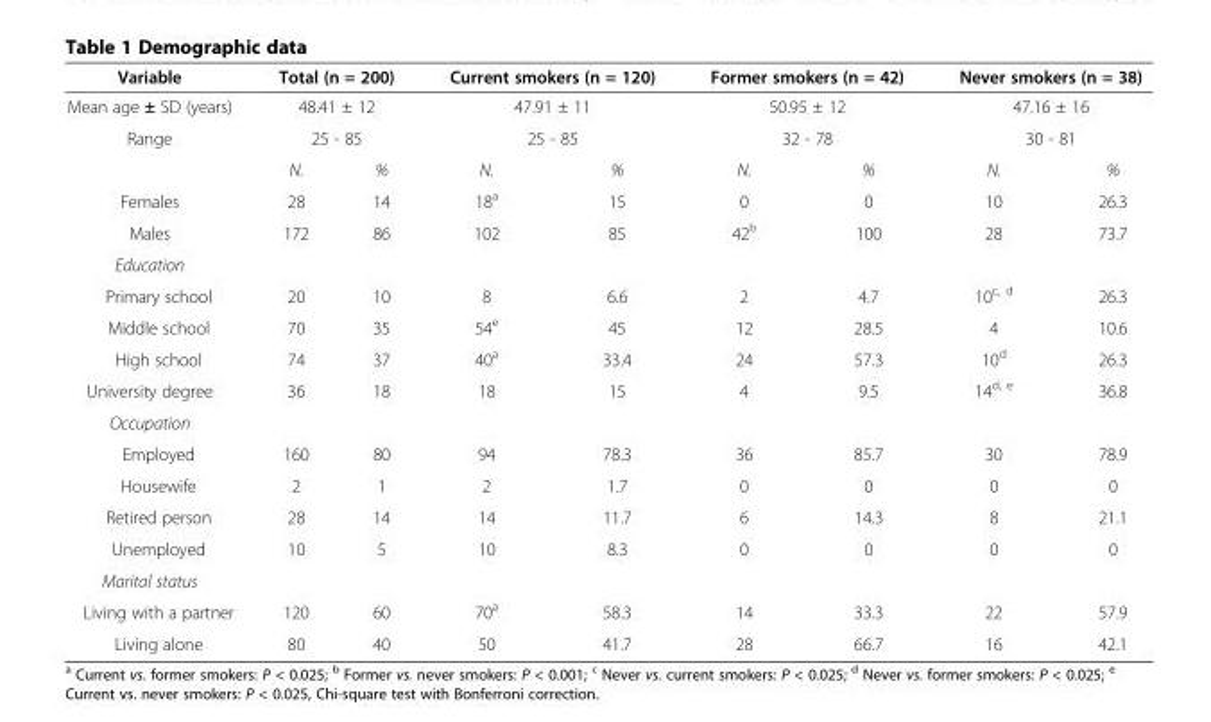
<table><thead><tr><td rowspan="4">Variable Mean age ± SD (years) Range</td><td rowspan="3" colspan="2">Total (n = 200) 48.41 ± 12 25 - 85</td><td rowspan="3" colspan="2">Current smokers (n = 120) 47.91 ± 11 25 - 85</td><td rowspan="3" colspan="2">Former smokers (n = 42) 50.95 ± 12 32 - 78</td><td rowspan="3" colspan="2">Never smokers (n = 38) 47.16 ± 16 30 - 81</td></tr><tr></tr><tr></tr><tr><td>N.</td><td>%</td><td>N.</td><td>%</td><td>N.</td><td>%</td><td>N.</td><td>%</td></tr></thead><tbody><tr><td>Females</td><td>28</td><td>14</td><td>18<sup>a</sup></td><td>15</td><td>0</td><td>0</td><td>10</td><td>26.3</td></tr><tr><td>Males</td><td>172</td><td>86</td><td>102</td><td>85</td><td>42<sup>b</sup></td><td>100</td><td>28</td><td>73.7</td></tr><tr><td colspan="9">Education</td></tr><tr><td>Primary school</td><td>20</td><td>10</td><td>8</td><td>6.6</td><td>2</td><td>4.7</td><td>10<sup>c, d</sup></td><td>26.3</td></tr><tr><td>Middle school</td><td>70</td><td>35</td><td>54<sup>e</sup></td><td>45</td><td>12</td><td>28.5</td><td>4</td><td>10.6</td></tr><tr><td>High school</td><td>74</td><td>37</td><td>40<sup>a</sup></td><td>33.4</td><td>24</td><td>57.3</td><td>10<sup>d</sup></td><td>26.3</td></tr><tr><td>University degree</td><td>36</td><td>18</td><td>18</td><td>15</td><td>4</td><td>9.5</td><td>14<sup>d, e</sup></td><td>36.8</td></tr><tr><td colspan="9">Occupation</td></tr><tr><td>Employed</td><td>160</td><td>80</td><td>94</td><td>78.3</td><td>36</td><td>85.7</td><td>30</td><td>78.9</td></tr><tr><td>Housewife</td><td>2</td><td>1</td><td>2</td><td>1.7</td><td>0</td><td>0</td><td>0</td><td>0</td></tr><tr><td>Retired person</td><td>28</td><td>14</td><td>14</td><td>11.7</td><td>6</td><td>14.3</td><td>8</td><td>21.1</td></tr><tr><td>Unemployed</td><td>10</td><td>5</td><td>10</td><td>8.3</td><td>0</td><td>0</td><td>0</td><td>0</td></tr><tr><td colspan="9">Marital status</td></tr><tr><td>Living with a partner</td><td>120</td><td>60</td><td>70<sup>a</sup></td><td>58.3</td><td>14</td><td>33.3</td><td>22</td><td>57.9</td></tr><tr><td>Living alone</td><td>80</td><td>40</td><td>50</td><td>41.7</td><td>28</td><td>66.7</td><td>16</td><td>42.1</td></tr></tbody></table>